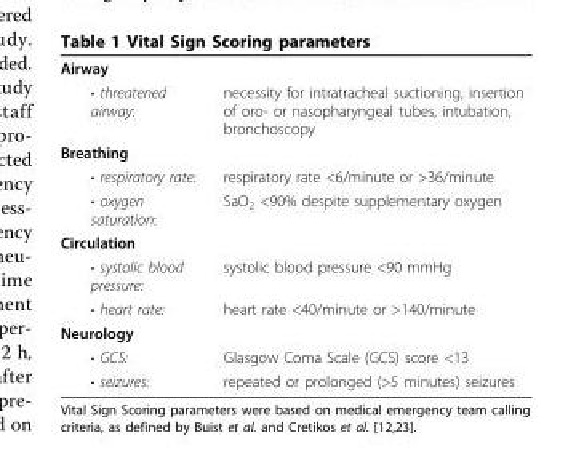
<table><tbody><tr><td colspan="2">Airway</td></tr><tr><td>• threatened airway:</td><td>necessity for intratracheal suctioning, insertion of oro- or nasopharyngeal tubes, intubation, bronchoscopy</td></tr><tr><td colspan="2">Breathing</td></tr><tr><td>• respiratory rate:</td><td>respiratory rate &lt;6/minute or &gt;36/minute</td></tr><tr><td>• oxygen saturation:</td><td>SaO<sub>2</sub> &lt;90% despite supplementary oxygen</td></tr><tr><td colspan="2">Circulation</td></tr><tr><td>• systolic blood pressure:</td><td>systolic blood pressure &lt;90 mmHg</td></tr><tr><td>• heart rate:</td><td>heart rate &lt;40/minute or &gt;140/minute</td></tr><tr><td colspan="2">Neurology</td></tr><tr><td>• GCS:</td><td>Glasgow Coma Scale (GCS) score &lt;13</td></tr><tr><td>• seizures:</td><td>repeated or prolonged (&gt;5 minutes) seizures</td></tr></tbody></table>